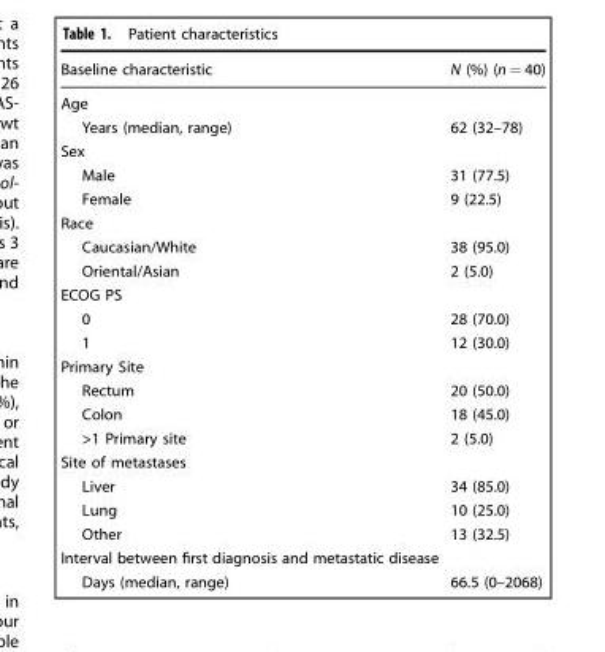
<table><thead><tr><td>Baseline characteristic</td><td>N (%) (n = 40)</td></tr></thead><tbody><tr><td colspan="2">Age</td></tr><tr><td>Years (median, range)</td><td>62 (32–78)</td></tr><tr><td colspan="2">Sex</td></tr><tr><td>Male</td><td>31 (77.5)</td></tr><tr><td>Female</td><td>9 (22.5)</td></tr><tr><td colspan="2">Race</td></tr><tr><td>Caucasian/White</td><td>38 (95.0)</td></tr><tr><td>Oriental/Asian</td><td>2 (5.0)</td></tr><tr><td colspan="2">ECOG PS</td></tr><tr><td>0</td><td>28 (70.0)</td></tr><tr><td>1</td><td>12 (30.0)</td></tr><tr><td colspan="2">Primary Site</td></tr><tr><td>Rectum</td><td>20 (50.0)</td></tr><tr><td>Colon</td><td>18 (45.0)</td></tr><tr><td>&gt;1 Primary site</td><td>2 (5.0)</td></tr><tr><td colspan="2">Site of metastases</td></tr><tr><td>Liver</td><td>34 (85.0)</td></tr><tr><td>Lung</td><td>10 (25.0)</td></tr><tr><td>Other</td><td>13 (32.5)</td></tr><tr><td colspan="2">Interval between first diagnosis and metastatic disease</td></tr><tr><td>Days (median, range)</td><td>66.5 (0–2068)</td></tr></tbody></table>